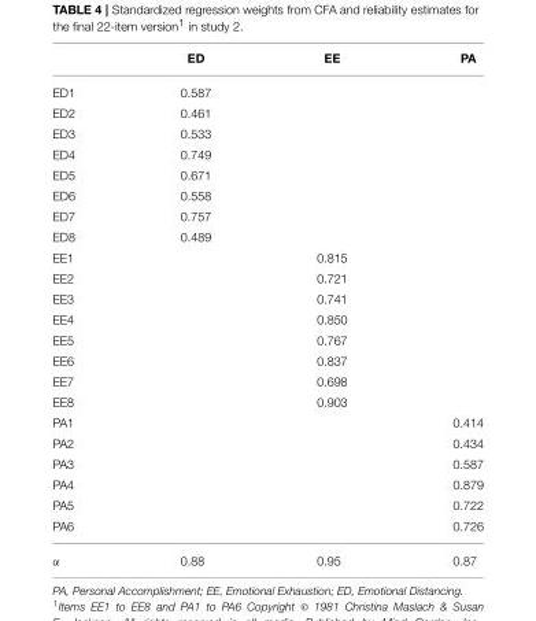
<table><thead><tr><td></td><td>ED</td><td>EE</td><td>PA</td></tr></thead><tbody><tr><td>ED1</td><td>0.587</td><td></td><td></td></tr><tr><td>ED2</td><td>0.461</td><td></td><td></td></tr><tr><td>ED3</td><td>0.533</td><td></td><td></td></tr><tr><td>ED4</td><td>0.749</td><td></td><td></td></tr><tr><td>ED5</td><td>0.671</td><td></td><td></td></tr><tr><td>ED6</td><td>0.558</td><td></td><td></td></tr><tr><td>ED7</td><td>0.757</td><td></td><td></td></tr><tr><td>ED8</td><td>0.489</td><td></td><td></td></tr><tr><td>EE1</td><td></td><td>0.815</td><td></td></tr><tr><td>EE2</td><td></td><td>0.721</td><td></td></tr><tr><td>EE3</td><td></td><td>0.741</td><td></td></tr><tr><td>EE4</td><td></td><td>0.850</td><td></td></tr><tr><td>EE5</td><td></td><td>0.767</td><td></td></tr><tr><td>EE6</td><td></td><td>0.837</td><td></td></tr><tr><td>EE7</td><td></td><td>0.698</td><td></td></tr><tr><td>EE8</td><td></td><td>0.903</td><td></td></tr><tr><td>PA1</td><td></td><td></td><td>0.414</td></tr><tr><td>PA2</td><td></td><td></td><td>0.434</td></tr><tr><td>PA3</td><td></td><td></td><td>0.587</td></tr><tr><td>PA4</td><td></td><td></td><td>0.879</td></tr><tr><td>PA5</td><td></td><td></td><td>0.722</td></tr><tr><td>PA6</td><td></td><td></td><td>0.726</td></tr><tr><td>α</td><td>0.88</td><td>0.95</td><td>0.87</td></tr></tbody></table>